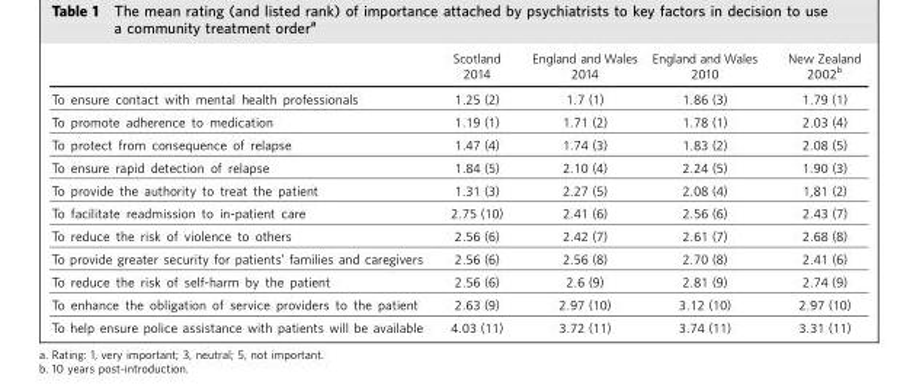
<table><thead><tr><td></td><td>Scotland 2014</td><td>England and Wales 2014</td><td>England and Wales 2010</td><td>New Zealand 2002<sup>b</sup></td></tr></thead><tbody><tr><td>To ensure contact with mental health professionals</td><td>1.25 (2)</td><td>1.7 (1)</td><td>1.86 (3)</td><td>1.79 (1)</td></tr><tr><td>To promote adherence to medication</td><td>1.19 (1)</td><td>1.71 (2)</td><td>1.78 (1)</td><td>2.03 (4)</td></tr><tr><td>To protect from consequence of relapse</td><td>1.47 (4)</td><td>1.74 (3)</td><td>1.83 (2)</td><td>2.08 (5)</td></tr><tr><td>To ensure rapid detection of relapse</td><td>1.84 (5)</td><td>2.10 (4)</td><td>2.24 (5)</td><td>1.90 (3)</td></tr><tr><td>To provide the authority to treat the patient</td><td>1.31 (3)</td><td>2.27 (5)</td><td>2.08 (4)</td><td>1,81 (2)</td></tr><tr><td>To facilitate readmission to in-patient care</td><td>2.75 (10)</td><td>2.41 (6)</td><td>2.56 (6)</td><td>2.43 (7)</td></tr><tr><td>To reduce the risk of violence to others</td><td>2.56 (6)</td><td>2.42 (7)</td><td>2.61 (7)</td><td>2.68 (8)</td></tr><tr><td>To provide greater security for patients’ families and caregivers</td><td>2.56 (6)</td><td>2.56 (8)</td><td>2.70 (8)</td><td>2.41 (6)</td></tr><tr><td>To reduce the risk of self-harm by the patient</td><td>2.56 (6)</td><td>2.6 (9)</td><td>2.81 (9)</td><td>2.74 (9)</td></tr><tr><td>To enhance the obligation of service providers to the patient</td><td>2.63 (9)</td><td>2.97 (10)</td><td>3.12 (10)</td><td>2.97 (10)</td></tr><tr><td>To help ensure police assistance with patients will be available</td><td>4.03 (11)</td><td>3.72 (11)</td><td>3.74 (11)</td><td>3.31 (11)</td></tr></tbody></table>